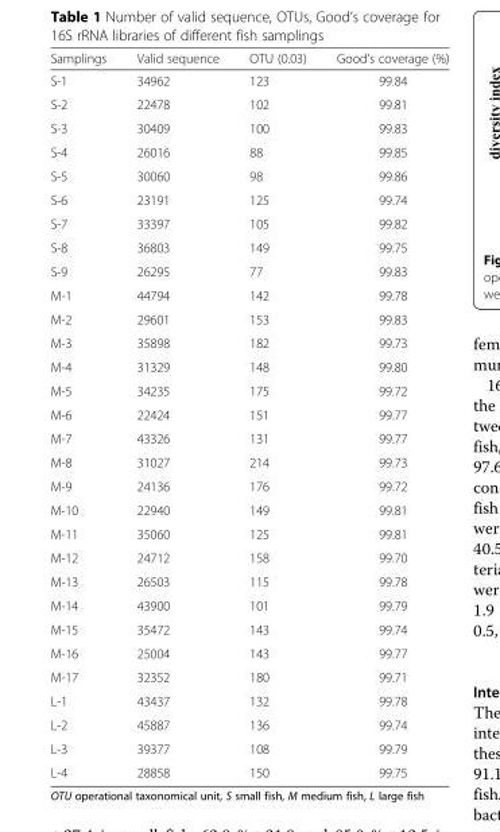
<table><thead><tr><td>Samplings</td><td>Valid sequence</td><td>OTU (0.03)</td><td>Good’s coverage (%)</td></tr></thead><tbody><tr><td>S-1</td><td>34962</td><td>123</td><td>99.84</td></tr><tr><td>S-2</td><td>22478</td><td>102</td><td>99.81</td></tr><tr><td>S-3</td><td>30409</td><td>100</td><td>99.83</td></tr><tr><td>S-4</td><td>26016</td><td>88</td><td>99.85</td></tr><tr><td>S-5</td><td>30060</td><td>98</td><td>99.86</td></tr><tr><td>S-6</td><td>23191</td><td>125</td><td>99.74</td></tr><tr><td>S-7</td><td>33397</td><td>105</td><td>99.82</td></tr><tr><td>S-8</td><td>36803</td><td>149</td><td>99.75</td></tr><tr><td>S-9</td><td>26295</td><td>77</td><td>99.83</td></tr><tr><td>M-1</td><td>44794</td><td>142</td><td>99.78</td></tr><tr><td>M-2</td><td>29601</td><td>153</td><td>99.83</td></tr><tr><td>M-3</td><td>35898</td><td>182</td><td>99.73</td></tr><tr><td>M-4</td><td>31329</td><td>148</td><td>99.80</td></tr><tr><td>M-5</td><td>34235</td><td>175</td><td>99.72</td></tr><tr><td>M-6</td><td>22424</td><td>151</td><td>99.77</td></tr><tr><td>M-7</td><td>43326</td><td>131</td><td>99.77</td></tr><tr><td>M-8</td><td>31027</td><td>214</td><td>99.73</td></tr><tr><td>M-9</td><td>24136</td><td>176</td><td>99.72</td></tr><tr><td>M-10</td><td>22940</td><td>149</td><td>99.81</td></tr><tr><td>M-11</td><td>35060</td><td>125</td><td>99.81</td></tr><tr><td>M-12</td><td>24712</td><td>158</td><td>99.70</td></tr><tr><td>M-13</td><td>26503</td><td>115</td><td>99.78</td></tr><tr><td>M-14</td><td>43900</td><td>101</td><td>99.79</td></tr><tr><td>M-15</td><td>35472</td><td>143</td><td>99.74</td></tr><tr><td>M-16</td><td>25004</td><td>143</td><td>99.77</td></tr><tr><td>M-17</td><td>32352</td><td>180</td><td>99.71</td></tr><tr><td>L-1</td><td>43437</td><td>132</td><td>99.78</td></tr><tr><td>L-2</td><td>45887</td><td>136</td><td>99.74</td></tr><tr><td>L-3</td><td>39377</td><td>108</td><td>99.79</td></tr><tr><td>L-4</td><td>28858</td><td>150</td><td>99.75</td></tr></tbody></table>